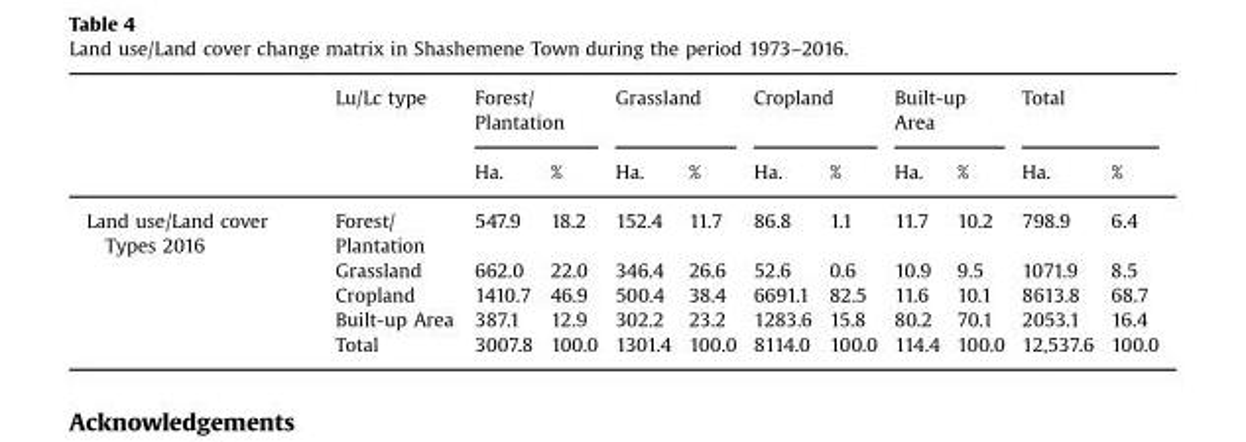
<table><thead><tr><td rowspan="2"></td><td rowspan="2">Lu/Lc type</td><td colspan="2">Forest/ Plantation</td><td colspan="2">Grassland</td><td colspan="2">Cropland</td><td colspan="2">Built-up Area</td><td colspan="2">Total</td></tr><tr><td>Ha.</td><td>%</td><td>Ha.</td><td>%</td><td>Ha.</td><td>%</td><td>Ha.</td><td>%</td><td>Ha.</td><td>%</td></tr></thead><tbody><tr><td rowspan="5">Land use/Land cover Types 2016</td><td>Forest/ Plantation</td><td>547.9</td><td>18.2</td><td>152.4</td><td>11.7</td><td>86.8</td><td>1.1</td><td>11.7</td><td>10.2</td><td>798.9</td><td>6.4</td></tr><tr><td>Grassland</td><td>662.0</td><td>22.0</td><td>346.4</td><td>26.6</td><td>52.6</td><td>0.6</td><td>10.9</td><td>9.5</td><td>1071.9</td><td>8.5</td></tr><tr><td>Cropland</td><td>1410.7</td><td>46.9</td><td>500.4</td><td>38.4</td><td>6691.1</td><td>82.5</td><td>11.6</td><td>10.1</td><td>8613.8</td><td>68.7</td></tr><tr><td>Built-up Area</td><td>387.1</td><td>12.9</td><td>302.2</td><td>23.2</td><td>1283.6</td><td>15.8</td><td>80.2</td><td>70.1</td><td>2053.1</td><td>16.4</td></tr><tr><td>Total</td><td>3007.8</td><td>100.0</td><td>1301.4</td><td>100.0</td><td>8114.0</td><td>100.0</td><td>114.4</td><td>100.0</td><td>12,537.6</td><td>100.0</td></tr></tbody></table>